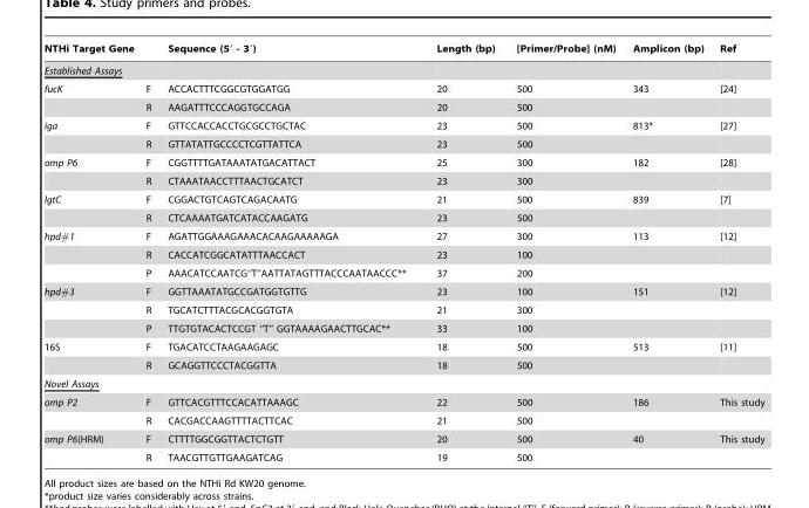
<table><thead><tr><td rowspan="2" colspan="2">NTHi Target Gene Established Assays</td><td rowspan="3">Sequence (5′ - 3′) ACCACTTTCGGCGTGGATGG</td><td rowspan="3">Length (bp) 20</td><td rowspan="3">[Primer/Probe] (nM) 500</td><td rowspan="3">Amplicon (bp) 343</td><td rowspan="3">Ref [24]</td></tr><tr></tr><tr><td>fucK</td><td>F</td></tr></thead><tbody><tr><td></td><td>R</td><td>AAGATTTCCCAGGTGCCAGA</td><td>20</td><td>500</td><td></td><td></td></tr><tr><td rowspan="2">iga</td><td>F</td><td>GTTCCACCACCTGCGCCTGCTAC</td><td>23</td><td>500</td><td>813*</td><td>[27]</td></tr><tr><td>R</td><td>GTTATATTGCCCCTCGTTATTCA</td><td>23</td><td>500</td><td></td><td></td></tr><tr><td rowspan="2">omp P6</td><td>F</td><td>CGGTTTTGATAAATATGACATTACT</td><td>25</td><td>300</td><td>182</td><td>[28]</td></tr><tr><td>R</td><td>CTAAATAACCTTTAACTGCATCT</td><td>23</td><td>300</td><td></td><td></td></tr><tr><td rowspan="2">lgtC</td><td>F</td><td>CGGACTGTCAGTCAGACAATG</td><td>21</td><td>500</td><td>839</td><td>[7]</td></tr><tr><td>R</td><td>CTCAAAATGATCATACCAAGATG</td><td>23</td><td>500</td><td></td><td></td></tr><tr><td rowspan="3">hpd#1</td><td>F</td><td>AGATTGGAAAGAAACACAAGAAAAAGA</td><td>27</td><td>300</td><td>113</td><td>[12]</td></tr><tr><td>R</td><td>CACCATCGGCATATTTAACCACT</td><td>23</td><td>100</td><td></td><td></td></tr><tr><td>P</td><td>AAACATCCAATCG‘‘T’’AATTATAGTTTACCCAATAACCC**</td><td>37</td><td>200</td><td></td><td></td></tr><tr><td rowspan="3">hpd#3</td><td>F</td><td>GGTTAAATATGCCGATGGTGTTG</td><td>23</td><td>100</td><td>151</td><td>[12]</td></tr><tr><td>R</td><td>TGCATCTTTACGCACGGTGTA</td><td>21</td><td>300</td><td></td><td></td></tr><tr><td>P</td><td>TTGTGTACACTCCGT ‘‘T’’ GGTAAAAGAACTTGCAC**</td><td>33</td><td>100</td><td></td><td></td></tr><tr><td rowspan="2">16S</td><td>F</td><td>TGACATCCTAAGAAGAGC</td><td>18</td><td>500</td><td>513</td><td>[11]</td></tr><tr><td>R</td><td>GCAGGTTCCCTACGGTTA</td><td>18</td><td>500</td><td></td><td></td></tr><tr><td colspan="7">Novel Assays</td></tr><tr><td rowspan="2">omp P2</td><td>F</td><td>GTTCACGTTTCCACATTAAAGC</td><td>22</td><td>500</td><td>186</td><td>This study</td></tr><tr><td>R</td><td>CACGACCAAGTTTTACTTCAC</td><td>21</td><td>500</td><td></td><td></td></tr><tr><td rowspan="2">omp P6(HRM)</td><td>F</td><td>CTTTTGGCGGTTACTCTGTT</td><td>20</td><td>500</td><td>40</td><td>This study</td></tr><tr><td>R</td><td>TAACGTTGTTGAAGATCAG</td><td>19</td><td>500</td><td></td><td></td></tr></tbody></table>